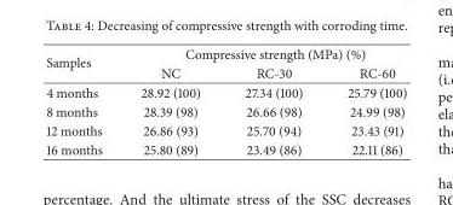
<table><thead><tr><td rowspan="2">Samples</td><td colspan="3">Compressive strength (MPa) (%)</td></tr><tr><td>NC</td><td>RC-30</td><td>RC-60</td></tr></thead><tbody><tr><td>4 months</td><td>28.92 (100)</td><td>27.34 (100)</td><td>25.79 (100)</td></tr><tr><td>8 months</td><td>28.39 (98)</td><td>26.66 (98)</td><td>24.99 (98)</td></tr><tr><td>12 months</td><td>26.86 (93)</td><td>25.70 (94)</td><td>23.43 (91)</td></tr><tr><td>16 months</td><td>25.80 (89)</td><td>23.49 (86)</td><td>22.11 (86)</td></tr></tbody></table>